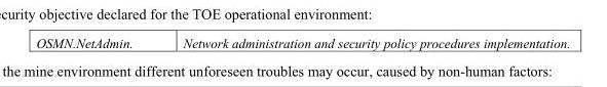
<table><tbody><tr><td>OSMN.NetAdmin.</td><td>Network administration and security policy procedures implementation.</td></tr></tbody></table>